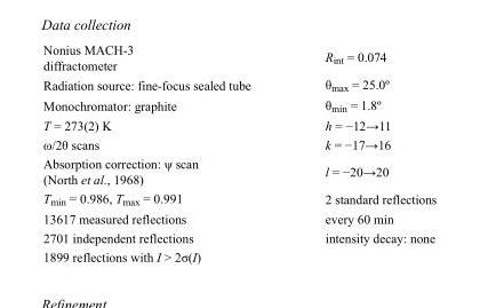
<table><tbody><tr><td>Nonius MACH-3 diffractometer</td><td>R<sub>int</sub> = 0.074</td></tr><tr><td>Radiation source: fine-focus sealed tube</td><td>θ<sub>max</sub> = 25.0º</td></tr><tr><td>Monochromator: graphite</td><td>θ<sub>min</sub> = 1.8º</td></tr><tr><td>T = 273(2) K</td><td>h = −12→11</td></tr><tr><td>ω/2θ scans</td><td>k = −17→16</td></tr><tr><td>Absorption correction: ψ scan (North et al., 1968)</td><td>l = −20→20</td></tr><tr><td>T<sub>min</sub> = 0.986, T<sub>max</sub> = 0.991</td><td>2 standard reflections</td></tr><tr><td>13617 measured reflections</td><td>every 60 min</td></tr><tr><td>2701 independent reflections</td><td>intensity decay: none</td></tr><tr><td>1899 reflections with I &gt; 2σ(I)</td><td></td></tr></tbody></table>